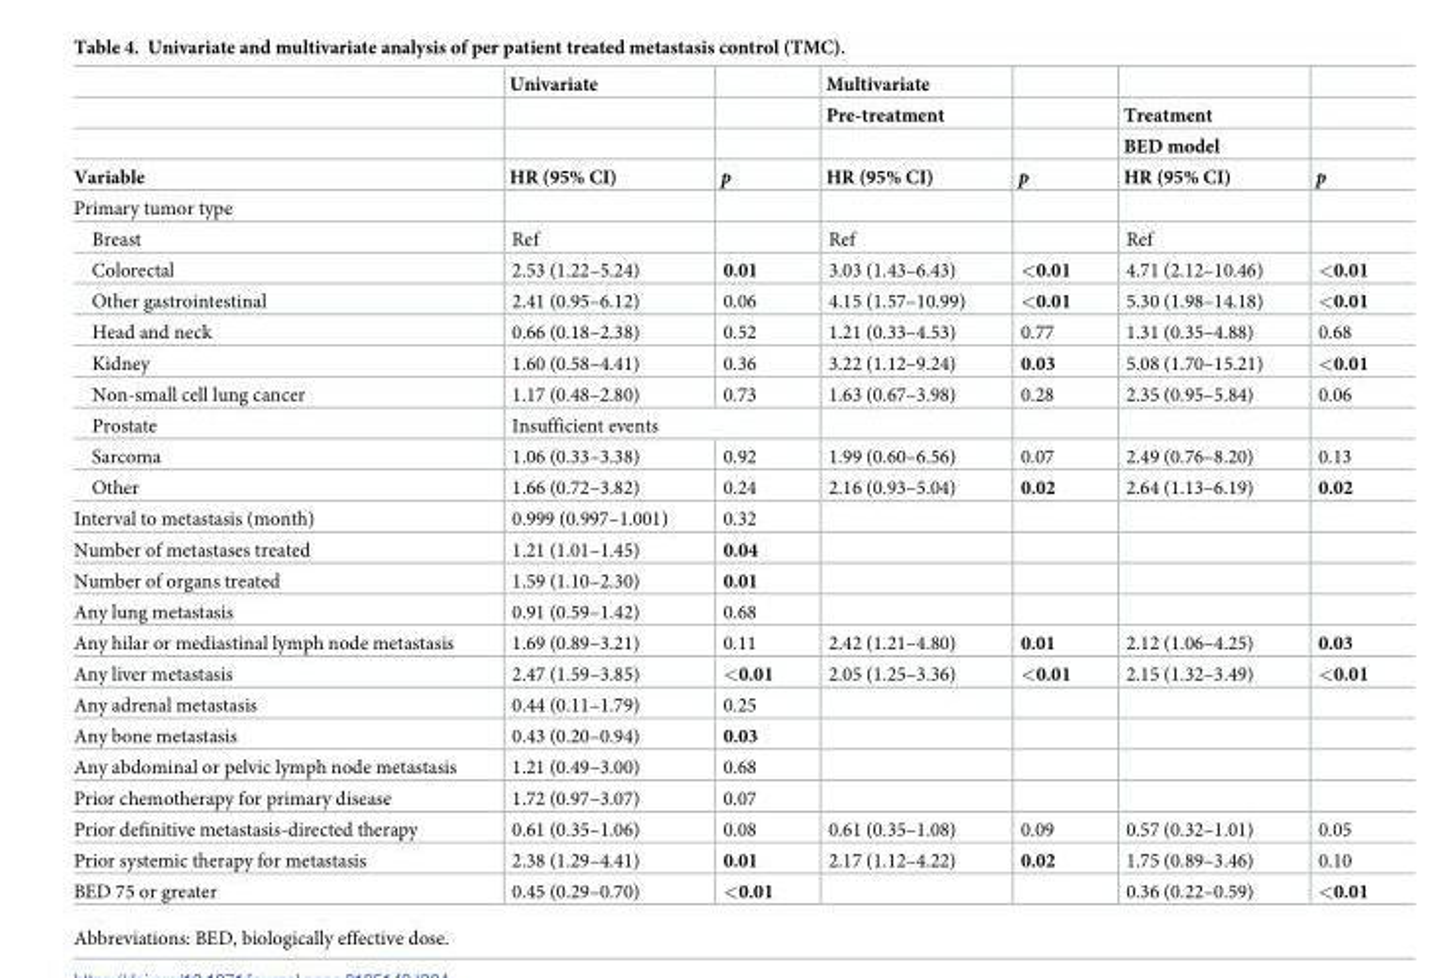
<table><thead><tr><td rowspan="4">Variable</td><td rowspan="4">Univariate HR (95% CI)</td><td rowspan="4">p</td><td rowspan="4">Multivariate Pre-treatment HR (95% CI)</td><td rowspan="4">p</td><td rowspan="4">Treatment BED model HR (95% CI)</td><td rowspan="4">p</td></tr><tr></tr><tr></tr><tr></tr></thead><tbody><tr><td colspan="7">Primary tumor type</td></tr><tr><td>Breast</td><td>Ref</td><td></td><td>Ref</td><td></td><td>Ref</td><td></td></tr><tr><td>Colorectal</td><td>2.53 (1.22–5.24)</td><td>0.01</td><td>3.03 (1.43–6.43)</td><td>&lt;0.01</td><td>4.71 (2.12–10.46)</td><td>&lt;0.01</td></tr><tr><td>Other gastrointestinal</td><td>2.41 (0.95–6.12)</td><td>0.06</td><td>4.15 (1.57–10.99)</td><td>&lt;0.01</td><td>5.30 (1.98–14.18)</td><td>&lt;0.01</td></tr><tr><td>Head and neck</td><td>0.66 (0.18–2.38)</td><td>0.52</td><td>1.21 (0.33–4.53)</td><td>0.77</td><td>1.31 (0.35–4.88)</td><td>0.68</td></tr><tr><td>Kidney</td><td>1.60 (0.58–4.41)</td><td>0.36</td><td>3.22 (1.12–9.24)</td><td>0.03</td><td>5.08 (1.70–15.21)</td><td>&lt;0.01</td></tr><tr><td>Non-small cell lung cancer</td><td>1.17 (0.48–2.80)</td><td>0.73</td><td>1.63 (0.67–3.98)</td><td>0.28</td><td>2.35 (0.95–5.84)</td><td>0.06</td></tr><tr><td>Prostate</td><td colspan="2">Insufficient events</td><td></td><td></td><td></td><td></td></tr><tr><td>Sarcoma</td><td>1.06 (0.33–3.38)</td><td>0.92</td><td>1.99 (0.60–6.56)</td><td>0.07</td><td>2.49 (0.76–8.20)</td><td>0.13</td></tr><tr><td>Other</td><td>1.66 (0.72–3.82)</td><td>0.24</td><td>2.16 (0.93–5.04)</td><td>0.02</td><td>2.64 (1.13–6.19)</td><td>0.02</td></tr><tr><td>Interval to metastasis (month)</td><td>0.999 (0.997–1.001)</td><td>0.32</td><td></td><td></td><td></td><td></td></tr><tr><td>Number of metastases treated</td><td>1.21 (1.01–1.45)</td><td>0.04</td><td></td><td></td><td></td><td></td></tr><tr><td>Number of organs treated</td><td>1.59 (1.10–2.30)</td><td>0.01</td><td></td><td></td><td></td><td></td></tr><tr><td>Any lung metastasis</td><td>0.91 (0.59–1.42)</td><td>0.68</td><td></td><td></td><td></td><td></td></tr><tr><td>Any hilar or mediastinal lymph node metastasis</td><td>1.69 (0.89–3.21)</td><td>0.11</td><td>2.42 (1.21–4.80)</td><td>0.01</td><td>2.12 (1.06–4.25)</td><td>0.03</td></tr><tr><td>Any liver metastasis</td><td>2.47 (1.59–3.85)</td><td>&lt;0.01</td><td>2.05 (1.25–3.36)</td><td>&lt;0.01</td><td>2.15 (1.32–3.49)</td><td>&lt;0.01</td></tr><tr><td>Any adrenal metastasis</td><td>0.44 (0.11–1.79)</td><td>0.25</td><td></td><td></td><td></td><td></td></tr><tr><td>Any bone metastasis</td><td>0.43 (0.20–0.94)</td><td>0.03</td><td></td><td></td><td></td><td></td></tr><tr><td>Any abdominal or pelvic lymph node metastasis</td><td>1.21 (0.49–3.00)</td><td>0.68</td><td></td><td></td><td></td><td></td></tr><tr><td>Prior chemotherapy for primary disease</td><td>1.72 (0.97–3.07)</td><td>0.07</td><td></td><td></td><td></td><td></td></tr><tr><td>Prior definitive metastasis-directed therapy</td><td>0.61 (0.35–1.06)</td><td>0.08</td><td>0.61 (0.35–1.08)</td><td>0.09</td><td>0.57 (0.32–1.01)</td><td>0.05</td></tr><tr><td>Prior systemic therapy for metastasis</td><td>2.38 (1.29–4.41)</td><td>0.01</td><td>2.17 (1.12–4.22)</td><td>0.02</td><td>1.75 (0.89–3.46)</td><td>0.10</td></tr><tr><td>BED 75 or greater</td><td>0.45 (0.29–0.70)</td><td>&lt;0.01</td><td></td><td></td><td>0.36 (0.22–0.59)</td><td>&lt;0.01</td></tr></tbody></table>